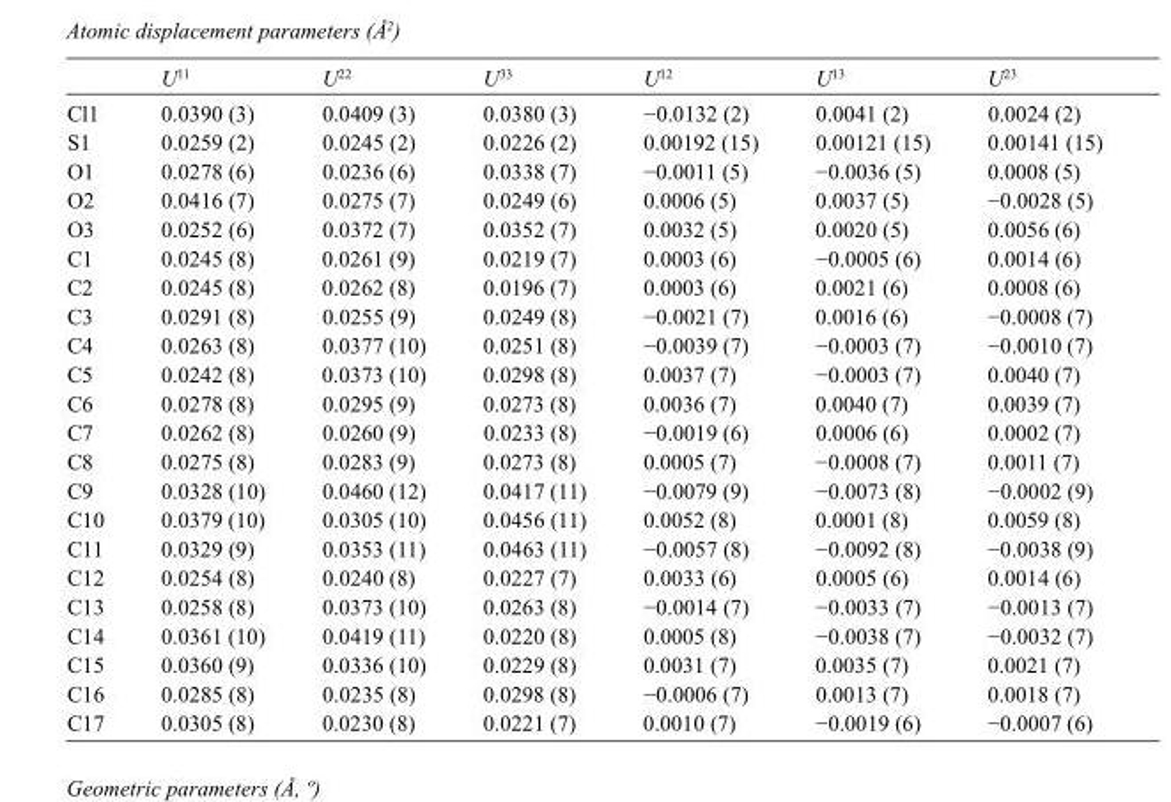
<table><thead><tr><td></td><td>U<sup>11</sup></td><td>U<sup>22</sup></td><td>U<sup>33</sup></td><td>U<sup>12</sup></td><td>U<sup>13</sup></td><td>U<sup>23</sup></td></tr></thead><tbody><tr><td>Cl1</td><td>0.0390 (3)</td><td>0.0409 (3)</td><td>0.0380 (3)</td><td>−0.0132 (2)</td><td>0.0041 (2)</td><td>0.0024 (2)</td></tr><tr><td>S1</td><td>0.0259 (2)</td><td>0.0245 (2)</td><td>0.0226 (2)</td><td>0.00192 (15)</td><td>0.00121 (15)</td><td>0.00141 (15)</td></tr><tr><td>O1</td><td>0.0278 (6)</td><td>0.0236 (6)</td><td>0.0338 (7)</td><td>−0.0011 (5)</td><td>−0.0036 (5)</td><td>0.0008 (5)</td></tr><tr><td>O2</td><td>0.0416 (7)</td><td>0.0275 (7)</td><td>0.0249 (6)</td><td>0.0006 (5)</td><td>0.0037 (5)</td><td>−0.0028 (5)</td></tr><tr><td>O3</td><td>0.0252 (6)</td><td>0.0372 (7)</td><td>0.0352 (7)</td><td>0.0032 (5)</td><td>0.0020 (5)</td><td>0.0056 (6)</td></tr><tr><td>C1</td><td>0.0245 (8)</td><td>0.0261 (9)</td><td>0.0219 (7)</td><td>0.0003 (6)</td><td>−0.0005 (6)</td><td>0.0014 (6)</td></tr><tr><td>C2</td><td>0.0245 (8)</td><td>0.0262 (8)</td><td>0.0196 (7)</td><td>0.0003 (6)</td><td>0.0021 (6)</td><td>0.0008 (6)</td></tr><tr><td>C3</td><td>0.0291 (8)</td><td>0.0255 (9)</td><td>0.0249 (8)</td><td>−0.0021 (7)</td><td>0.0016 (6)</td><td>−0.0008 (7)</td></tr><tr><td>C4</td><td>0.0263 (8)</td><td>0.0377 (10)</td><td>0.0251 (8)</td><td>−0.0039 (7)</td><td>−0.0003 (7)</td><td>−0.0010 (7)</td></tr><tr><td>C5</td><td>0.0242 (8)</td><td>0.0373 (10)</td><td>0.0298 (8)</td><td>0.0037 (7)</td><td>−0.0003 (7)</td><td>0.0040 (7)</td></tr><tr><td>C6</td><td>0.0278 (8)</td><td>0.0295 (9)</td><td>0.0273 (8)</td><td>0.0036 (7)</td><td>0.0040 (7)</td><td>0.0039 (7)</td></tr><tr><td>C7</td><td>0.0262 (8)</td><td>0.0260 (9)</td><td>0.0233 (8)</td><td>−0.0019 (6)</td><td>0.0006 (6)</td><td>0.0002 (7)</td></tr><tr><td>C8</td><td>0.0275 (8)</td><td>0.0283 (9)</td><td>0.0273 (8)</td><td>0.0005 (7)</td><td>−0.0008 (7)</td><td>0.0011 (7)</td></tr><tr><td>C9</td><td>0.0328 (10)</td><td>0.0460 (12)</td><td>0.0417 (11)</td><td>−0.0079 (9)</td><td>−0.0073 (8)</td><td>−0.0002 (9)</td></tr><tr><td>C10</td><td>0.0379 (10)</td><td>0.0305 (10)</td><td>0.0456 (11)</td><td>0.0052 (8)</td><td>0.0001 (8)</td><td>0.0059 (8)</td></tr><tr><td>C11</td><td>0.0329 (9)</td><td>0.0353 (11)</td><td>0.0463 (11)</td><td>−0.0057 (8)</td><td>−0.0092 (8)</td><td>−0.0038 (9)</td></tr><tr><td>C12</td><td>0.0254 (8)</td><td>0.0240 (8)</td><td>0.0227 (7)</td><td>0.0033 (6)</td><td>0.0005 (6)</td><td>0.0014 (6)</td></tr><tr><td>C13</td><td>0.0258 (8)</td><td>0.0373 (10)</td><td>0.0263 (8)</td><td>−0.0014 (7)</td><td>−0.0033 (7)</td><td>−0.0013 (7)</td></tr><tr><td>C14</td><td>0.0361 (10)</td><td>0.0419 (11)</td><td>0.0220 (8)</td><td>0.0005 (8)</td><td>−0.0038 (7)</td><td>−0.0032 (7)</td></tr><tr><td>C15</td><td>0.0360 (9)</td><td>0.0336 (10)</td><td>0.0229 (8)</td><td>0.0031 (7)</td><td>0.0035 (7)</td><td>0.0021 (7)</td></tr><tr><td>C16</td><td>0.0285 (8)</td><td>0.0235 (8)</td><td>0.0298 (8)</td><td>−0.0006 (7)</td><td>0.0013 (7)</td><td>0.0018 (7)</td></tr><tr><td>C17</td><td>0.0305 (8)</td><td>0.0230 (8)</td><td>0.0221 (7)</td><td>0.0010 (7)</td><td>−0.0019 (6)</td><td>−0.0007 (6)</td></tr></tbody></table>